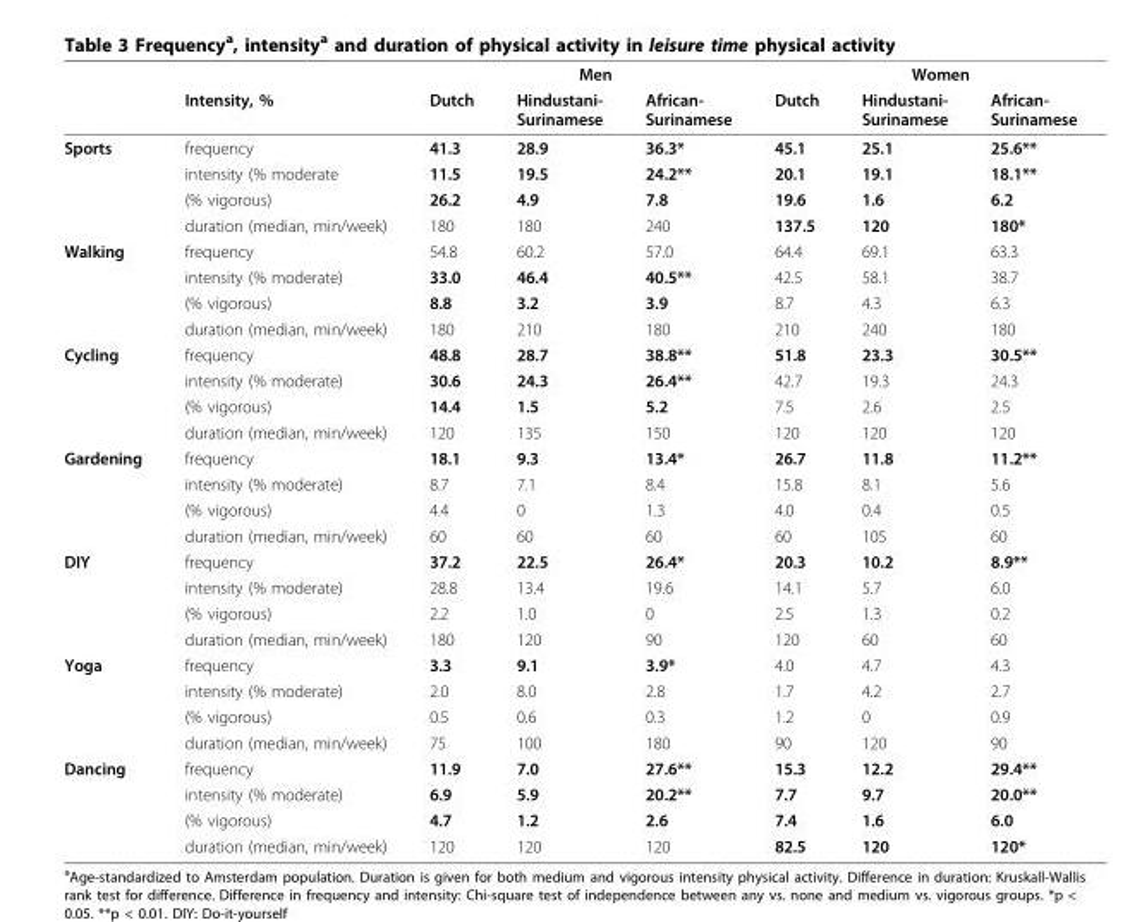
<table><thead><tr><td rowspan="2"></td><td rowspan="2">Intensity, %</td><td colspan="3">Men</td><td colspan="3">Women</td></tr><tr><td>Dutch</td><td>Hindustani- Surinamese</td><td>African- Surinamese</td><td>Dutch</td><td>Hindustani- Surinamese</td><td>African- Surinamese</td></tr></thead><tbody><tr><td rowspan="4">Sports</td><td>frequency</td><td>41.3</td><td>28.9</td><td>36.3*</td><td>45.1</td><td>25.1</td><td>25.6**</td></tr><tr><td>intensity (% moderate</td><td>11.5</td><td>19.5</td><td>24.2**</td><td>20.1</td><td>19.1</td><td>18.1**</td></tr><tr><td>(% vigorous)</td><td>26.2</td><td>4.9</td><td>7.8</td><td>19.6</td><td>1.6</td><td>6.2</td></tr><tr><td>duration (median, min/week)</td><td>180</td><td>180</td><td>240</td><td>137.5</td><td>120</td><td>180*</td></tr><tr><td rowspan="4">Walking</td><td>frequency</td><td>54.8</td><td>60.2</td><td>57.0</td><td>64.4</td><td>69.1</td><td>63.3</td></tr><tr><td>intensity (% moderate)</td><td>33.0</td><td>46.4</td><td>40.5**</td><td>42.5</td><td>58.1</td><td>38.7</td></tr><tr><td>(% vigorous)</td><td>8.8</td><td>3.2</td><td>3.9</td><td>8.7</td><td>4.3</td><td>6.3</td></tr><tr><td>duration (median, min/week)</td><td>180</td><td>210</td><td>180</td><td>210</td><td>240</td><td>180</td></tr><tr><td rowspan="4">Cycling</td><td>frequency</td><td>48.8</td><td>28.7</td><td>38.8**</td><td>51.8</td><td>23.3</td><td>30.5**</td></tr><tr><td>intensity (% moderate)</td><td>30.6</td><td>24.3</td><td>26.4**</td><td>42.7</td><td>19.3</td><td>24.3</td></tr><tr><td>(% vigorous)</td><td>14.4</td><td>1.5</td><td>5.2</td><td>7.5</td><td>2.6</td><td>2.5</td></tr><tr><td>duration (median, min/week)</td><td>120</td><td>135</td><td>150</td><td>120</td><td>120</td><td>120</td></tr><tr><td rowspan="4">Gardening</td><td>frequency</td><td>18.1</td><td>9.3</td><td>13.4*</td><td>26.7</td><td>11.8</td><td>11.2**</td></tr><tr><td>intensity (% moderate)</td><td>8.7</td><td>7.1</td><td>8.4</td><td>15.8</td><td>8.1</td><td>5.6</td></tr><tr><td>(% vigorous)</td><td>4.4</td><td>0</td><td>1.3</td><td>4.0</td><td>0.4</td><td>0.5</td></tr><tr><td>duration (median, min/week)</td><td>60</td><td>60</td><td>60</td><td>60</td><td>105</td><td>60</td></tr><tr><td rowspan="4">DIY</td><td>frequency</td><td>37.2</td><td>22.5</td><td>26.4*</td><td>20.3</td><td>10.2</td><td>8.9**</td></tr><tr><td>intensity (% moderate)</td><td>28.8</td><td>13.4</td><td>19.6</td><td>14.1</td><td>5.7</td><td>6.0</td></tr><tr><td>(% vigorous)</td><td>2.2</td><td>1.0</td><td>0</td><td>2.5</td><td>1.3</td><td>0.2</td></tr><tr><td>duration (median, min/week)</td><td>180</td><td>120</td><td>90</td><td>120</td><td>60</td><td>60</td></tr><tr><td rowspan="4">Yoga</td><td>frequency</td><td>3.3</td><td>9.1</td><td>3.9*</td><td>4.0</td><td>4.7</td><td>4.3</td></tr><tr><td>intensity (% moderate)</td><td>2.0</td><td>8.0</td><td>2.8</td><td>1.7</td><td>4.2</td><td>2.7</td></tr><tr><td>(% vigorous)</td><td>0.5</td><td>0.6</td><td>0.3</td><td>1.2</td><td>0</td><td>0.9</td></tr><tr><td>duration (median, min/week)</td><td>75</td><td>100</td><td>180</td><td>90</td><td>120</td><td>90</td></tr><tr><td rowspan="4">Dancing</td><td>frequency</td><td>11.9</td><td>7.0</td><td>27.6**</td><td>15.3</td><td>12.2</td><td>29.4**</td></tr><tr><td>intensity (% moderate)</td><td>6.9</td><td>5.9</td><td>20.2**</td><td>7.7</td><td>9.7</td><td>20.0**</td></tr><tr><td>(% vigorous)</td><td>4.7</td><td>1.2</td><td>2.6</td><td>7.4</td><td>1.6</td><td>6.0</td></tr><tr><td>duration (median, min/week)</td><td>120</td><td>120</td><td>120</td><td>82.5</td><td>120</td><td>120*</td></tr></tbody></table>